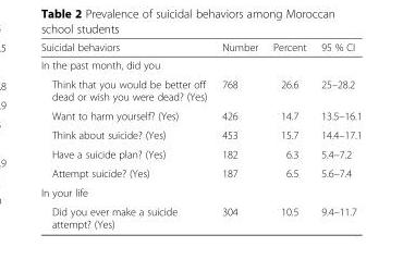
<table><thead><tr><td>Suicidal behaviors</td><td>Number</td><td>Percent</td><td>95 % CI</td></tr></thead><tbody><tr><td colspan="4">In the past month, did you</td></tr><tr><td>Think that you would be better off dead or wish you were dead? (Yes)</td><td>768</td><td>26.6</td><td>25–28.2</td></tr><tr><td>Want to harm yourself? (Yes)</td><td>426</td><td>14.7</td><td>13.5–16.1</td></tr><tr><td>Think about suicide? (Yes)</td><td>453</td><td>15.7</td><td>14.4–17.1</td></tr><tr><td>Have a suicide plan? (Yes)</td><td>182</td><td>6.3</td><td>5.4–7.2</td></tr><tr><td>Attempt suicide? (Yes)</td><td>187</td><td>6.5</td><td>5.6–7.4</td></tr><tr><td colspan="4">In your life</td></tr><tr><td>Did you ever make a suicide attempt? (Yes)</td><td>304</td><td>10.5</td><td>9.4–11.7</td></tr></tbody></table>